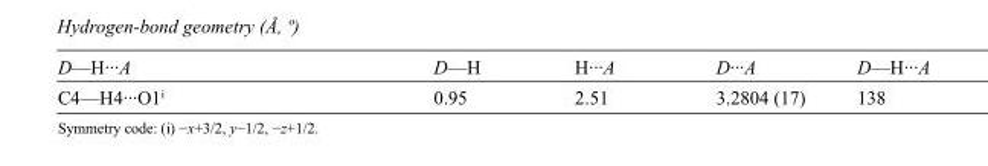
<table><tbody><tr><td>D—H···A</td><td>D—H</td><td>H···A</td><td>D···A</td><td>D—H···A</td></tr><tr><td>C4—H4···O1<sup>i</sup></td><td>0.95</td><td>2.51</td><td>3.2804 (17)</td><td>138</td></tr></tbody></table>